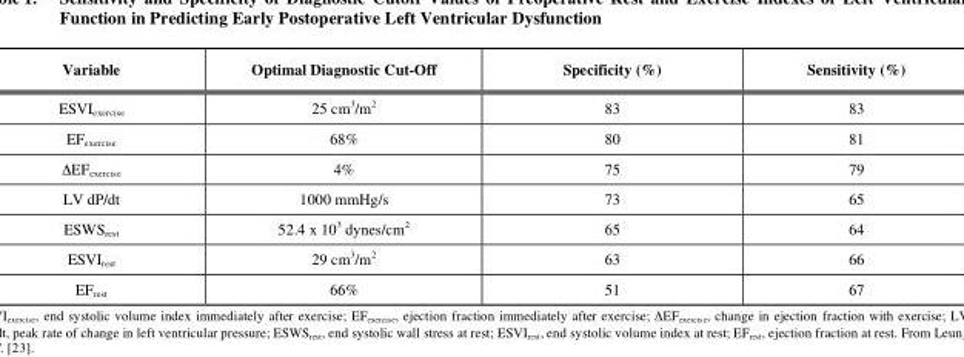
<table><thead><tr><td>Variable</td><td>Optimal Diagnostic Cut-Off</td><td>Specificity (%)</td><td>Sensitivity (%)</td></tr></thead><tbody><tr><td>ESVI<sub>exercise</sub></td><td>25 cm<sup>3</sup>/m<sup>2</sup></td><td>83</td><td>83</td></tr><tr><td>EF<sub>exercise</sub></td><td>68%</td><td>80</td><td>81</td></tr><tr><td>ΔEF<sub>exercise</sub></td><td>4%</td><td>75</td><td>79</td></tr><tr><td>LV dP/dt</td><td>1000 mmHg/s</td><td>73</td><td>65</td></tr><tr><td>ESWS<sub>rest</sub></td><td>52.4 x 10<sup>3</sup> dynes/cm<sup>2</sup></td><td>65</td><td>64</td></tr><tr><td>ESVI<sub>rest</sub></td><td>29 cm<sup>3</sup>/m<sup>2</sup></td><td>63</td><td>66</td></tr><tr><td>EF<sub>rest</sub></td><td>66%</td><td>51</td><td>67</td></tr></tbody></table>